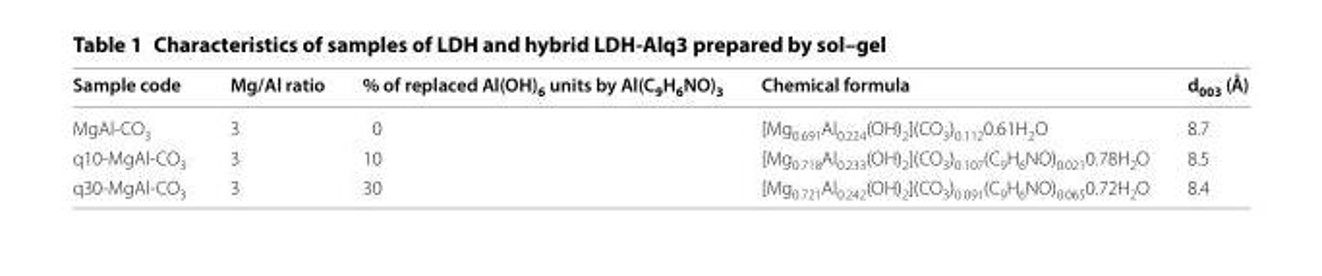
<table><thead><tr><td>Sample code</td><td>Mg/Al ratio</td><td>% of replaced Al(OH)<sub>6</sub> units by Al(C<sub>9</sub>H<sub>6</sub>NO)<sub>3</sub></td><td>Chemical formula</td><td>d<sub>003</sub> (Å)</td></tr></thead><tbody><tr><td>MgAl-CO<sub>3</sub></td><td>3</td><td>0</td><td>[Mg<sub>0.691</sub>Al<sub>0.224</sub>(OH)<sub>2</sub>](CO<sub>3</sub>)<sub>0.112</sub>0.61H<sub>2</sub>O</td><td>8.7</td></tr><tr><td>q10-MgAl-CO<sub>3</sub></td><td>3</td><td>10</td><td>[Mg<sub>0.718</sub>Al<sub>0.233</sub>(OH)<sub>2</sub>](CO<sub>3</sub>)<sub>0.107</sub>(C<sub>9</sub>H<sub>6</sub>NO)<sub>0.021</sub>0.78H<sub>2</sub>O</td><td>8.5</td></tr><tr><td>q30-MgAl-CO<sub>3</sub></td><td>3</td><td>30</td><td>[Mg<sub>0.721</sub>Al<sub>0.242</sub>(OH)<sub>2</sub>](CO<sub>3</sub>)<sub>0.091</sub>(C<sub>9</sub>H<sub>6</sub>NO)<sub>0.065</sub>0.72H<sub>2</sub>O</td><td>8.4</td></tr></tbody></table>